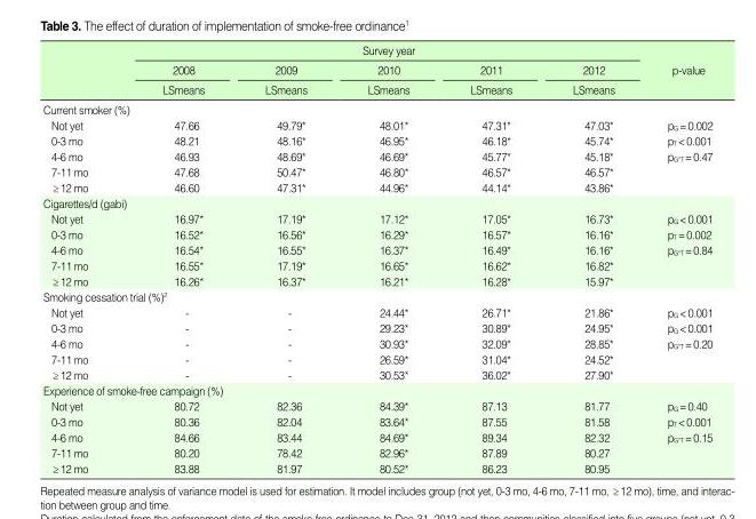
<table><thead><tr><td rowspan="3"></td><td colspan="5">Survey year</td><td rowspan="3">p-value</td></tr><tr><td rowspan="2">2008 LSmeans</td><td rowspan="2">2009 LSmeans</td><td rowspan="2">2010 LSmeans</td><td rowspan="2">2011 LSmeans</td><td rowspan="2">2012 LSmeans</td></tr><tr></tr></thead><tbody><tr><td colspan="7">Current smoker (%)</td></tr><tr><td>Not yet</td><td>47.66</td><td>49.79*</td><td>48.01*</td><td>47.31*</td><td>47.03*</td><td>p<sub>G</sub>=0.002</td></tr><tr><td>0-3 mo</td><td>48.21</td><td>48.16*</td><td>46.95*</td><td>46.18*</td><td>45.74*</td><td>p<sub>T</sub>&lt;0.001</td></tr><tr><td>4-6 mo</td><td>46.93</td><td>48.69*</td><td>46.69*</td><td>45.77*</td><td>45.18*</td><td>p<sub>G*T</sub>=0.47</td></tr><tr><td>7-11 mo</td><td>47.68</td><td>50.47*</td><td>46.80*</td><td>46.57*</td><td>46.57*</td><td></td></tr><tr><td>≥12 mo</td><td>46.60</td><td>47.31*</td><td>44.96*</td><td>44.14*</td><td>43.86*</td><td></td></tr><tr><td colspan="7">Cigarettes/d (gabi)</td></tr><tr><td>Not yet</td><td>16.97*</td><td>17.19*</td><td>17.12*</td><td>17.05*</td><td>16.73*</td><td>p<sub>G</sub>&lt;0.001</td></tr><tr><td>0-3 mo</td><td>16.52*</td><td>16.56*</td><td>16.29*</td><td>16.57*</td><td>16.16*</td><td>p<sub>T</sub>=0.002</td></tr><tr><td>4-6 mo</td><td>16.54*</td><td>16.55*</td><td>16.37*</td><td>16.49*</td><td>16.16*</td><td>p<sub>G*T</sub>=0.84</td></tr><tr><td>7-11 mo</td><td>16.55*</td><td>17.19*</td><td>16.65*</td><td>16.62*</td><td>16.82*</td><td></td></tr><tr><td>≥12 mo</td><td>16.26*</td><td>16.37*</td><td>16.21*</td><td>16.28*</td><td>15.97*</td><td></td></tr><tr><td colspan="7">Smoking cessation trial (%)<sup>2</sup></td></tr><tr><td>Not yet</td><td>-</td><td>-</td><td>24.44*</td><td>26.71*</td><td>21.86*</td><td>p<sub>G</sub>&lt;0.001</td></tr><tr><td>0-3 mo</td><td>-</td><td>-</td><td>29.23*</td><td>30.89*</td><td>24.95*</td><td>p<sub>G</sub>&lt;0.001</td></tr><tr><td>4-6 mo</td><td>-</td><td>-</td><td>30.93*</td><td>32.09*</td><td>28.85*</td><td>p<sub>G*T</sub>=0.20</td></tr><tr><td>7-11 mo</td><td>-</td><td>-</td><td>26.59*</td><td>31.04*</td><td>24.52*</td><td></td></tr><tr><td>≥12 mo</td><td>-</td><td>-</td><td>30.53*</td><td>36.02*</td><td>27.90*</td><td></td></tr><tr><td colspan="7">Experience of smoke-free campaign (%)</td></tr><tr><td>Not yet</td><td>80.72</td><td>82.36</td><td>84.39*</td><td>87.13</td><td>81.77</td><td>p<sub>G</sub>=0.40</td></tr><tr><td>0-3 mo</td><td>80.36</td><td>82.04</td><td>83.64*</td><td>87.55</td><td>81.58</td><td>p<sub>T</sub>&lt;0.001</td></tr><tr><td>4-6 mo</td><td>84.66</td><td>83.44</td><td>84.69*</td><td>89.34</td><td>82.32</td><td>p<sub>G*T</sub>=0.15</td></tr><tr><td>7-11 mo</td><td>80.20</td><td>78.42</td><td>82.96*</td><td>87.89</td><td>80.27</td><td></td></tr><tr><td>≥12 mo</td><td>83.88</td><td>81.97</td><td>80.52*</td><td>86.23</td><td>80.95</td><td></td></tr></tbody></table>